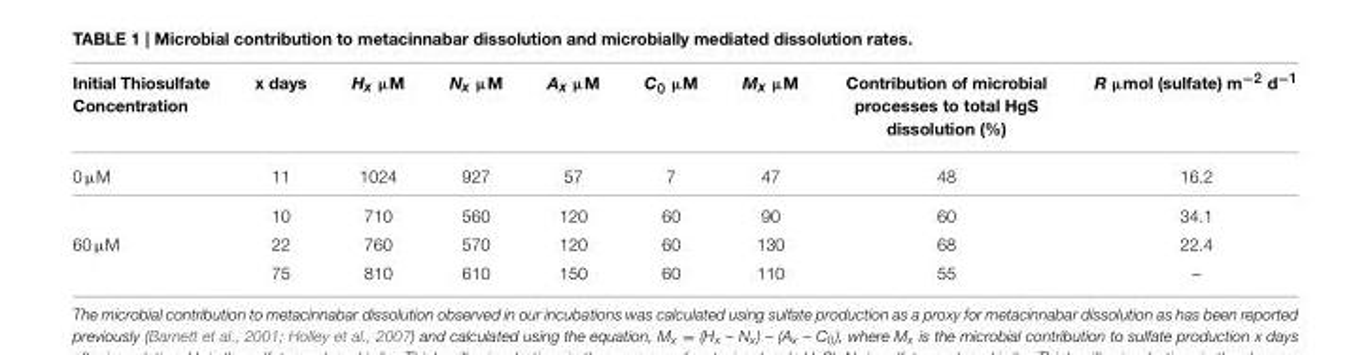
<table><thead><tr><td>Initial Thiosulfate Concentration</td><td>x days</td><td>H<sub>x</sub> µM</td><td>N<sub>x</sub> µM</td><td>A<sub>x</sub> µM</td><td>C<sub>0</sub> µM</td><td>M<sub>x</sub> µM</td><td>Contribution of microbial processes to total HgS dissolution (%)</td><td>R µmol (sulfate) m<sup>−2</sup> d<sup>−1</sup></td></tr></thead><tbody><tr><td rowspan="2">0 µM</td><td>11</td><td>1024</td><td>927</td><td>57</td><td>7</td><td>47</td><td>48</td><td>16.2</td></tr><tr><td>10</td><td>710</td><td>560</td><td>120</td><td>60</td><td>90</td><td>60</td><td>34.1</td></tr><tr><td rowspan="2">60 µM</td><td>22</td><td>760</td><td>570</td><td>120</td><td>60</td><td>130</td><td>68</td><td>22.4</td></tr><tr><td>75</td><td>810</td><td>610</td><td>150</td><td>60</td><td>110</td><td>55</td><td>–</td></tr></tbody></table>